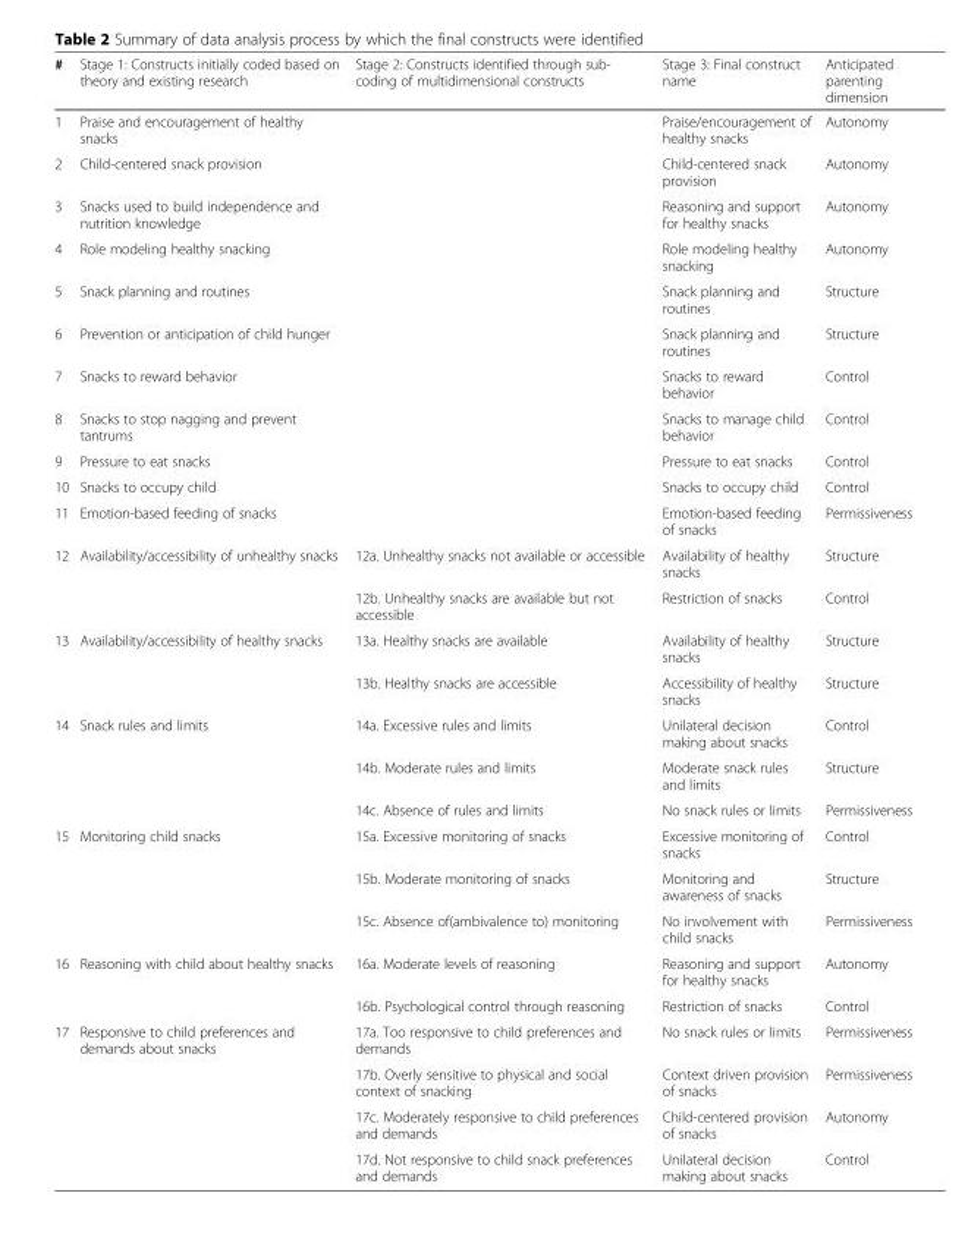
<table><thead><tr><td>#</td><td>Stage 1: Constructs initially coded based on theory and existing research</td><td>Stage 2: Constructs identified through sub- coding of multidimensional constructs</td><td>Stage 3: Final construct name</td><td>Anticipated parenting dimension</td></tr></thead><tbody><tr><td>1</td><td>Praise and encouragement of healthy snacks</td><td></td><td>Praise/encouragement of healthy snacks</td><td>Autonomy</td></tr><tr><td>2</td><td>Child-centered snack provision</td><td></td><td>Child-centered snack provision</td><td>Autonomy</td></tr><tr><td>3</td><td>Snacks used to build independence and nutrition knowledge</td><td></td><td>Reasoning and support for healthy snacks</td><td>Autonomy</td></tr><tr><td>4</td><td>Role modeling healthy snacking</td><td></td><td>Role modeling healthy snacking</td><td>Autonomy</td></tr><tr><td>5</td><td>Snack planning and routines</td><td></td><td>Snack planning and routines</td><td>Structure</td></tr><tr><td>6</td><td>Prevention or anticipation of child hunger</td><td></td><td>Snack planning and routines</td><td>Structure</td></tr><tr><td>7</td><td>Snacks to reward behavior</td><td></td><td>Snacks to reward behavior</td><td>Control</td></tr><tr><td>8</td><td>Snacks to stop nagging and prevent tantrums</td><td></td><td>Snacks to manage child behavior</td><td>Control</td></tr><tr><td>9</td><td>Pressure to eat snacks</td><td></td><td>Pressure to eat snacks</td><td>Control</td></tr><tr><td>10</td><td>Snacks to occupy child</td><td></td><td>Snacks to occupy child</td><td>Control</td></tr><tr><td>11</td><td>Emotion-based feeding of snacks</td><td></td><td>Emotion-based feeding of snacks</td><td>Permissiveness</td></tr><tr><td rowspan="2">12</td><td>Availability/accessibility of unhealthy snacks</td><td>12a. Unhealthy snacks not available or accessible</td><td>Availability of healthy snacks</td><td>Structure</td></tr><tr><td></td><td>12b. Unhealthy snacks are available but not accessible</td><td>Restriction of snacks</td><td>Control</td></tr><tr><td rowspan="2">13</td><td>Availability/accessibility of healthy snacks</td><td>13a. Healthy snacks are available</td><td>Availability of healthy snacks</td><td>Structure</td></tr><tr><td></td><td>13b. Healthy snacks are accessible</td><td>Accessibility of healthy snacks</td><td>Structure</td></tr><tr><td rowspan="3">14</td><td>Snack rules and limits</td><td>14a. Excessive rules and limits</td><td>Unilateral decision making about snacks</td><td>Control</td></tr><tr><td></td><td>14b. Moderate rules and limits</td><td>Moderate snack rules and limits</td><td>Structure</td></tr><tr><td></td><td>14c. Absence of rules and limits</td><td>No snack rules or limits</td><td>Permissiveness</td></tr><tr><td rowspan="3">15</td><td>Monitoring child snacks</td><td>15a. Excessive monitoring of snacks</td><td>Excessive monitoring of snacks</td><td>Control</td></tr><tr><td></td><td>15b. Moderate monitoring of snacks</td><td>Monitoring and awareness of snacks</td><td>Structure</td></tr><tr><td></td><td>15c. Absence of(ambivalence to) monitoring</td><td>No involvement with child snacks</td><td>Permissiveness</td></tr><tr><td rowspan="2">16</td><td>Reasoning with child about healthy snacks</td><td>16a. Moderate levels of reasoning</td><td>Reasoning and support for healthy snacks</td><td>Autonomy</td></tr><tr><td></td><td>16b. Psychological control through reasoning</td><td>Restriction of snacks</td><td>Control</td></tr><tr><td rowspan="4">17</td><td>Responsive to child preferences and demands about snacks</td><td>17a. Too responsive to child preferences and demands</td><td>No snack rules or limits</td><td>Permissiveness</td></tr><tr><td></td><td>17b. Overly sensitive to physical and social context of snacking</td><td>Context driven provision of snacks</td><td>Permissiveness</td></tr><tr><td></td><td>17c. Moderately responsive to child preferences and demands</td><td>Child-centered provision of snacks</td><td>Autonomy</td></tr><tr><td></td><td>17d. Not responsive to child snack preferences and demands</td><td>Unilateral decision making about snacks</td><td>Control</td></tr></tbody></table>